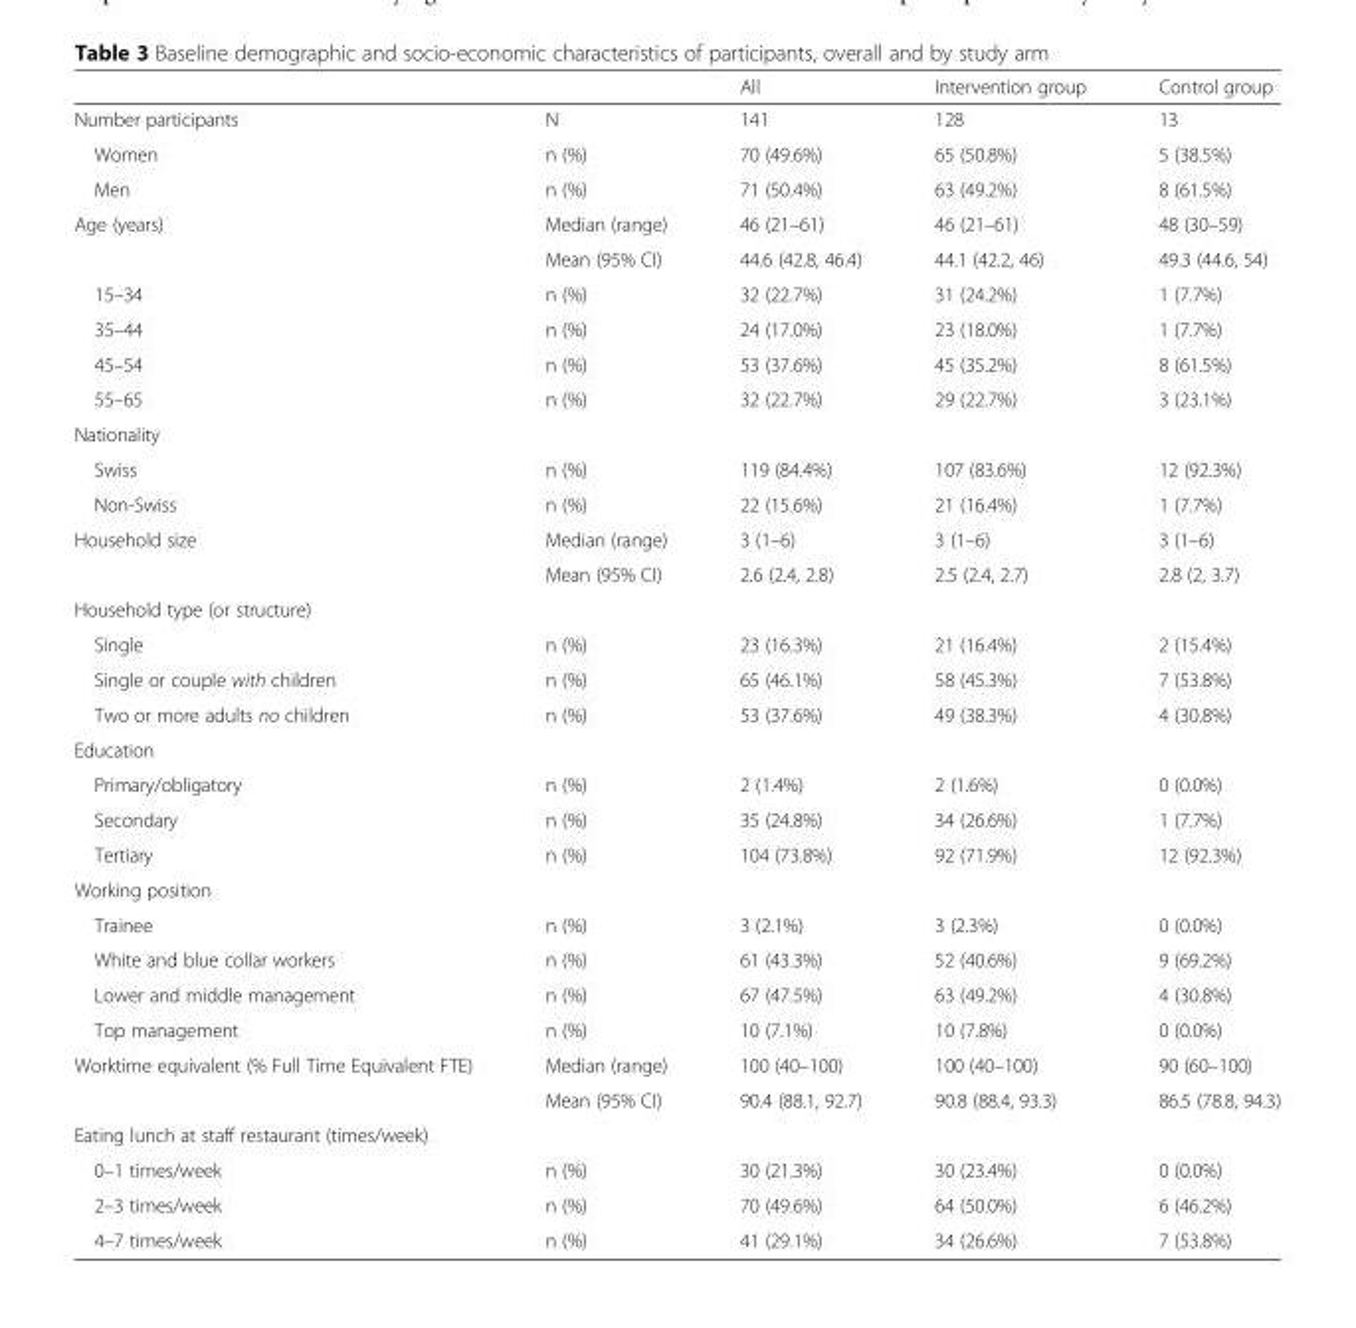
<table><thead><tr><td></td><td></td><td>All</td><td>Intervention group</td><td>Control group</td></tr></thead><tbody><tr><td>Number participants</td><td>N</td><td>141</td><td>128</td><td>13</td></tr><tr><td>Women</td><td>n (%)</td><td>70 (49.6%)</td><td>65 (50.8%)</td><td>5 (38.5%)</td></tr><tr><td>Men</td><td>n (%)</td><td>71 (50.4%)</td><td>63 (49.2%)</td><td>8 (61.5%)</td></tr><tr><td rowspan="2">Age (years)</td><td>Median (range)</td><td>46 (21–61)</td><td>46 (21–61)</td><td>48 (30–59)</td></tr><tr><td>Mean (95% CI)</td><td>44.6 (42.8, 46.4)</td><td>44.1 (42.2, 46)</td><td>49.3 (44.6, 54)</td></tr><tr><td>15–34</td><td>n (%)</td><td>32 (22.7%)</td><td>31 (24.2%)</td><td>1 (7.7%)</td></tr><tr><td>35–44</td><td>n (%)</td><td>24 (17.0%)</td><td>23 (18.0%)</td><td>1 (7.7%)</td></tr><tr><td>45–54</td><td>n (%)</td><td>53 (37.6%)</td><td>45 (35.2%)</td><td>8 (61.5%)</td></tr><tr><td>55–65</td><td>n (%)</td><td>32 (22.7%)</td><td>29 (22.7%)</td><td>3 (23.1%)</td></tr><tr><td colspan="5">Nationality</td></tr><tr><td>Swiss</td><td>n (%)</td><td>119 (84.4%)</td><td>107 (83.6%)</td><td>12 (92.3%)</td></tr><tr><td>Non-Swiss</td><td>n (%)</td><td>22 (15.6%)</td><td>21 (16.4%)</td><td>1 (7.7%)</td></tr><tr><td rowspan="2">Household size</td><td>Median (range)</td><td>3 (1–6)</td><td>3 (1–6)</td><td>3 (1–6)</td></tr><tr><td>Mean (95% CI)</td><td>2.6 (2.4, 2.8)</td><td>2.5 (2.4, 2.7)</td><td>2.8 (2, 3.7)</td></tr><tr><td colspan="5">Household type (or structure)</td></tr><tr><td>Single</td><td>n (%)</td><td>23 (16.3%)</td><td>21 (16.4%)</td><td>2 (15.4%)</td></tr><tr><td>Single or couple with children</td><td>n (%)</td><td>65 (46.1%)</td><td>58 (45.3%)</td><td>7 (53.8%)</td></tr><tr><td>Two or more adults no children</td><td>n (%)</td><td>53 (37.6%)</td><td>49 (38.3%)</td><td>4 (30.8%)</td></tr><tr><td colspan="5">Education</td></tr><tr><td>Primary/obligatory</td><td>n (%)</td><td>2 (1.4%)</td><td>2 (1.6%)</td><td>0 (0.0%)</td></tr><tr><td>Secondary</td><td>n (%)</td><td>35 (24.8%)</td><td>34 (26.6%)</td><td>1 (7.7%)</td></tr><tr><td>Tertiary</td><td>n (%)</td><td>104 (73.8%)</td><td>92 (71.9%)</td><td>12 (92.3%)</td></tr><tr><td colspan="5">Working position</td></tr><tr><td>Trainee</td><td>n (%)</td><td>3 (2.1%)</td><td>3 (2.3%)</td><td>0 (0.0%)</td></tr><tr><td>White and blue collar workers</td><td>n (%)</td><td>61 (43.3%)</td><td>52 (40.6%)</td><td>9 (69.2%)</td></tr><tr><td>Lower and middle management</td><td>n (%)</td><td>67 (47.5%)</td><td>63 (49.2%)</td><td>4 (30.8%)</td></tr><tr><td>Top management</td><td>n (%)</td><td>10 (7.1%)</td><td>10 (7.8%)</td><td>0 (0.0%)</td></tr><tr><td rowspan="2">Worktime equivalent (% Full Time Equivalent FTE)</td><td>Median (range)</td><td>100 (40–100)</td><td>100 (40–100)</td><td>90 (60–100)</td></tr><tr><td>Mean (95% CI)</td><td>90.4 (88.1, 92.7)</td><td>90.8 (88.4, 93.3)</td><td>86.5 (78.8, 94.3)</td></tr><tr><td colspan="5">Eating lunch at staff restaurant (times/week)</td></tr><tr><td>0–1 times/week</td><td>n (%)</td><td>30 (21.3%)</td><td>30 (23.4%)</td><td>0 (0.0%)</td></tr><tr><td>2–3 times/week</td><td>n (%)</td><td>70 (49.6%)</td><td>64 (50.0%)</td><td>6 (46.2%)</td></tr><tr><td>4–7 times/week</td><td>n (%)</td><td>41 (29.1%)</td><td>34 (26.6%)</td><td>7 (53.8%)</td></tr></tbody></table>